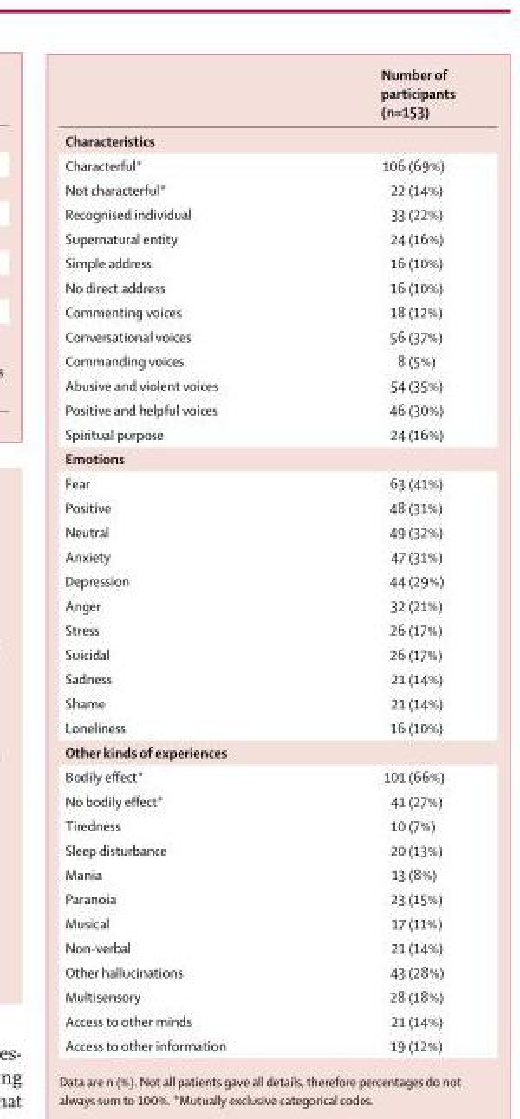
<table><thead><tr><td></td><td>Number of participants (n=153)</td></tr></thead><tbody><tr><td colspan="2">Characteristics</td></tr><tr><td>Characterful*</td><td>106 (69%)</td></tr><tr><td>Not characterful*</td><td>22 (14%)</td></tr><tr><td>Recognised individual</td><td>33 (22%)</td></tr><tr><td>Supernatural entity</td><td>24 (16%)</td></tr><tr><td>Simple address</td><td>16 (10%)</td></tr><tr><td>No direct address</td><td>16 (10%)</td></tr><tr><td>Commenting voices</td><td>18 (12%)</td></tr><tr><td>Conversational voices</td><td>56 (37%)</td></tr><tr><td>Commanding voices</td><td>8 (5%)</td></tr><tr><td>Abusive and violent voices</td><td>54 (35%)</td></tr><tr><td>Positive and helpful voices</td><td>46 (30%)</td></tr><tr><td>Spiritual purpose</td><td>24 (16%)</td></tr><tr><td colspan="2">Emotions</td></tr><tr><td>Fear</td><td>63 (41%)</td></tr><tr><td>Positive</td><td>48 (31%)</td></tr><tr><td>Neutral</td><td>49 (32%)</td></tr><tr><td>Anxiety</td><td>47 (31%)</td></tr><tr><td>Depression</td><td>44 (29%)</td></tr><tr><td>Anger</td><td>32 (21%)</td></tr><tr><td>Stress</td><td>26 (17%)</td></tr><tr><td>Suicidal</td><td>26 (17%)</td></tr><tr><td>Sadness</td><td>21 (14%)</td></tr><tr><td>Shame</td><td>21 (14%)</td></tr><tr><td>Loneliness</td><td>16 (10%)</td></tr><tr><td colspan="2">Other kinds of experiences</td></tr><tr><td>Bodily eff ect*</td><td>101 (66%)</td></tr><tr><td>No bodily eff ect*</td><td>41 (27%)</td></tr><tr><td>Tiredness</td><td>10 (7%)</td></tr><tr><td>Sleep disturbance</td><td>20 (13%)</td></tr><tr><td>Mania</td><td>13 (8%)</td></tr><tr><td>Paranoia</td><td>23 (15%)</td></tr><tr><td>Musical</td><td>17 (11%)</td></tr><tr><td>Non-verbal</td><td>21 (14%)</td></tr><tr><td>Other hallucinations</td><td>43 (28%)</td></tr><tr><td>Multisensory</td><td>28 (18%)</td></tr><tr><td>Access to other minds</td><td>21 (14%)</td></tr><tr><td>Access to other information</td><td>19 (12%)</td></tr></tbody></table>